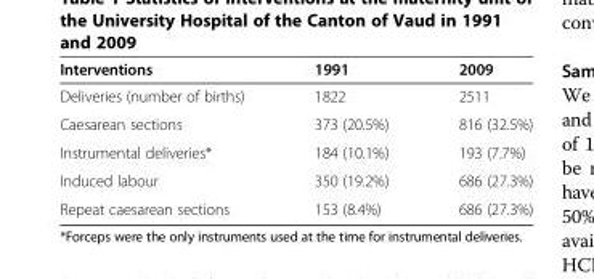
<table><thead><tr><td>Interventions</td><td>1991</td><td>2009</td></tr></thead><tbody><tr><td>Deliveries (number of births)</td><td>1822</td><td>2511</td></tr><tr><td>Caesarean sections</td><td>373 (20.5%)</td><td>816 (32.5%)</td></tr><tr><td>Instrumental deliveries*</td><td>184 (10.1%)</td><td>193 (7.7%)</td></tr><tr><td>Induced labour</td><td>350 (19.2%)</td><td>686 (27.3%)</td></tr><tr><td>Repeat caesarean sections</td><td>153 (8.4%)</td><td>686 (27.3%)</td></tr></tbody></table>